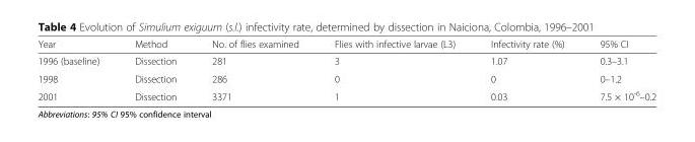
<table><thead><tr><td>Year</td><td>Method</td><td>No. of flies examined</td><td>Flies with infective larvae (L3)</td><td>Infectivity rate (%)</td><td>95% CI</td></tr></thead><tbody><tr><td>1996 (baseline)</td><td>Dissection</td><td>281</td><td>3</td><td>1.07</td><td>0.3–3.1</td></tr><tr><td>1998</td><td>Dissection</td><td>286</td><td>0</td><td>0</td><td>0–1.2</td></tr><tr><td>2001</td><td>Dissection</td><td>3371</td><td>1</td><td>0.03</td><td>7.5 × 10<sup>-6</sup>–0.2</td></tr></tbody></table>